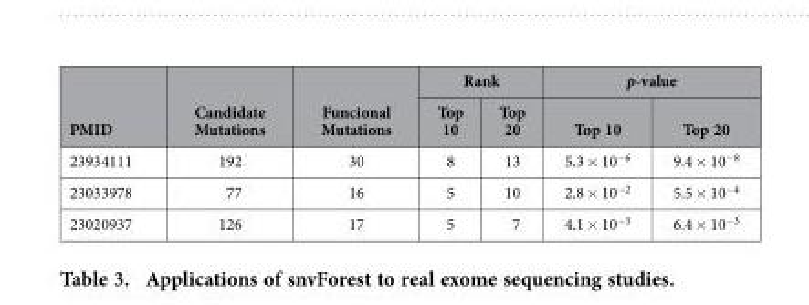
<table><thead><tr><td rowspan="2">PMID</td><td rowspan="2">Candidate Mutations</td><td rowspan="2">Funcional Mutations</td><td colspan="2">Rank</td><td colspan="2">p-value</td></tr><tr><td>Top 10</td><td>Top 20</td><td>Top 10</td><td>Top 20</td></tr></thead><tbody><tr><td>23934111</td><td>192</td><td>30</td><td>8</td><td>13</td><td>5.3 × 10<sup>−6</sup></td><td>9.4 × 10<sup>−8</sup></td></tr><tr><td>23033978</td><td>77</td><td>16</td><td>5</td><td>10</td><td>2.8 × 10<sup>−2</sup></td><td>5.5 × 10<sup>−4</sup></td></tr><tr><td>23020937</td><td>126</td><td>17</td><td>5</td><td>7</td><td>4.1 × 10<sup>−3</sup></td><td>6.4 × 10<sup>−3</sup></td></tr></tbody></table>